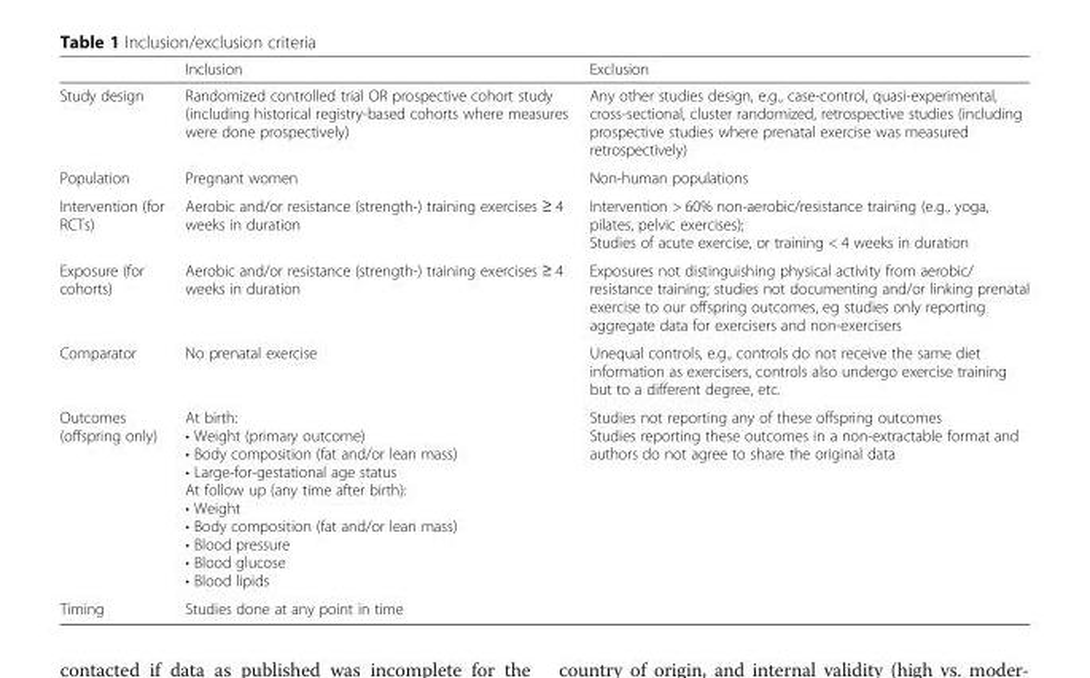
<table><thead><tr><td></td><td>Inclusion</td><td>Exclusion</td></tr></thead><tbody><tr><td>Study design</td><td>Randomized controlled trial OR prospective cohort study (including historical registry-based cohorts where measures were done prospectively)</td><td>Any other studies design, e.g., case-control, quasi-experimental, cross-sectional, cluster randomized, retrospective studies (including prospective studies where prenatal exercise was measured retrospectively)</td></tr><tr><td>Population</td><td>Pregnant women</td><td>Non-human populations</td></tr><tr><td>Intervention (for RCTs)</td><td>Aerobic and/or resistance (strength-) training exercises ≥ 4 weeks in duration</td><td>Intervention &gt; 60% non-aerobic/resistance training (e.g., yoga, pilates, pelvic exercises); Studies of acute exercise, or training &lt; 4 weeks in duration</td></tr><tr><td>Exposure (for cohorts)</td><td>Aerobic and/or resistance (strength-) training exercises ≥ 4 weeks in duration</td><td>Exposures not distinguishing physical activity from aerobic/ resistance training; studies not documenting and/or linking prenatal exercise to our offspring outcomes, eg studies only reporting aggregate data for exercisers and non-exercisers</td></tr><tr><td>Comparator</td><td>No prenatal exercise</td><td>Unequal controls, e.g., controls do not receive the same diet information as exercisers, controls also undergo exercise training but to a different degree, etc.</td></tr><tr><td>Outcomes (offspring only)</td><td>At birth: • Weight (primary outcome) • Body composition (fat and/or lean mass) • Large-for-gestational age status At follow up (any time after birth): • Weight • Body composition (fat and/or lean mass) • Blood pressure • Blood glucose • Blood lipids</td><td>Studies not reporting any of these offspring outcomes Studies reporting these outcomes in a non-extractable format and authors do not agree to share the original data</td></tr><tr><td>Timing</td><td>Studies done at any point in time</td><td></td></tr></tbody></table>